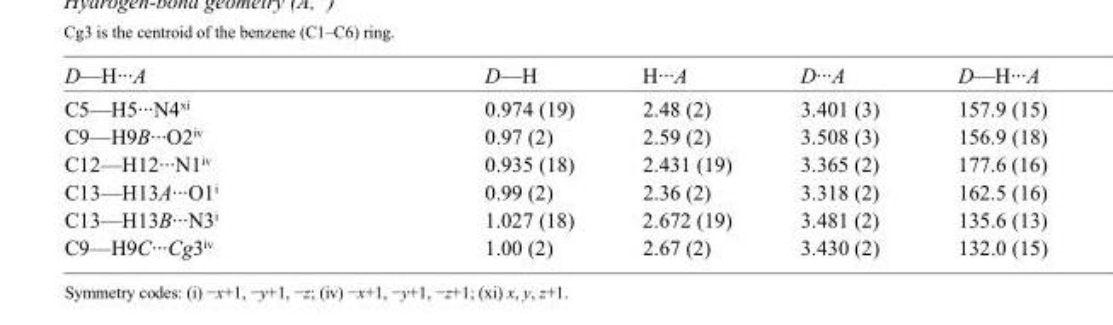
<table><tbody><tr><td>D—H···A</td><td>D—H</td><td>H···A</td><td>D···A</td><td>D—H···A</td></tr><tr><td>C5—H5···N4<sup>xi</sup></td><td>0.974 (19)</td><td>2.48 (2)</td><td>3.401 (3)</td><td>157.9 (15)</td></tr><tr><td>C9—H9B···O2<sup>iv</sup></td><td>0.97 (2)</td><td>2.59 (2)</td><td>3.508 (3)</td><td>156.9 (18)</td></tr><tr><td>C12—H12···N1<sup>iv</sup></td><td>0.935 (18)</td><td>2.431 (19)</td><td>3.365 (2)</td><td>177.6 (16)</td></tr><tr><td>C13—H13A···O1<sup>i</sup></td><td>0.99 (2)</td><td>2.36 (2)</td><td>3.318 (2)</td><td>162.5 (16)</td></tr><tr><td>C13—H13B···N3<sup>i</sup></td><td>1.027 (18)</td><td>2.672 (19)</td><td>3.481 (2)</td><td>135.6 (13)</td></tr><tr><td>C9—H9C···Cg3<sup>iv</sup></td><td>1.00 (2)</td><td>2.67 (2)</td><td>3.430 (2)</td><td>132.0 (15)</td></tr></tbody></table>